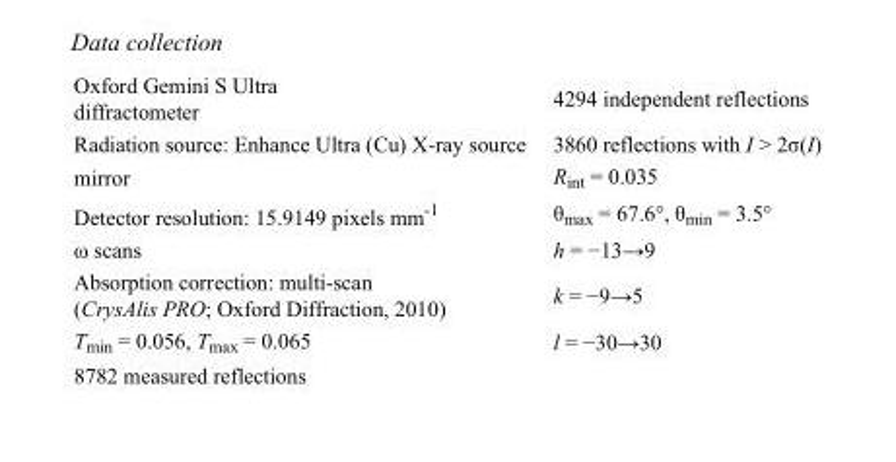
<table><tbody><tr><td>Oxford Gemini S Ultra diffractometer</td><td>4294 independent reflections</td></tr><tr><td>Radiation source: Enhance Ultra (Cu) X-ray source</td><td>3860 reflections with I &gt; 2σ(I)</td></tr><tr><td>mirror</td><td>R<sub>int</sub> = 0.035</td></tr><tr><td>Detector resolution: 15.9149 pixels mm<sup>-1</sup></td><td>θ<sub>max</sub> = 67.6°, θ<sub>min</sub> = 3.5°</td></tr><tr><td>ω scans</td><td>h = −13→9</td></tr><tr><td>Absorption correction: multi-scan (CrysAlis PRO; Oxford Diffraction, 2010)</td><td>k = −9→5</td></tr><tr><td>T<sub>min</sub> = 0.056, T<sub>max</sub> = 0.065</td><td>l = −30→30</td></tr><tr><td>8782 measured reflections</td><td></td></tr></tbody></table>